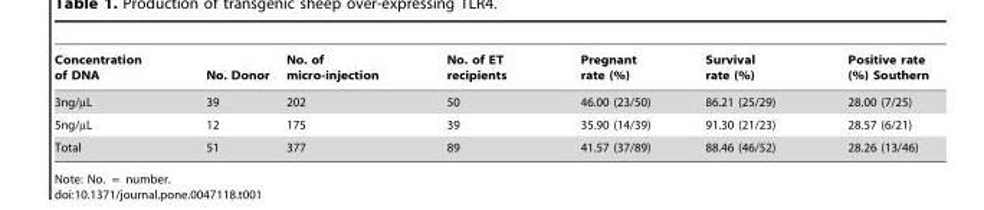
<table><thead><tr><td>Concentration of DNA</td><td>No. Donor</td><td>No. of micro-injection</td><td>No. of ET recipients</td><td>Pregnant rate (%)</td><td>Survival rate (%)</td><td>Positive rate (%) Southern</td></tr></thead><tbody><tr><td>3ng/µL</td><td>39</td><td>202</td><td>50</td><td>46.00 (23/50)</td><td>86.21 (25/29)</td><td>28.00 (7/25)</td></tr><tr><td>5ng/µL</td><td>12</td><td>175</td><td>39</td><td>35.90 (14/39)</td><td>91.30 (21/23)</td><td>28.57 (6/21)</td></tr><tr><td>Total</td><td>51</td><td>377</td><td>89</td><td>41.57 (37/89)</td><td>88.46 (46/52)</td><td>28.26 (13/46)</td></tr></tbody></table>